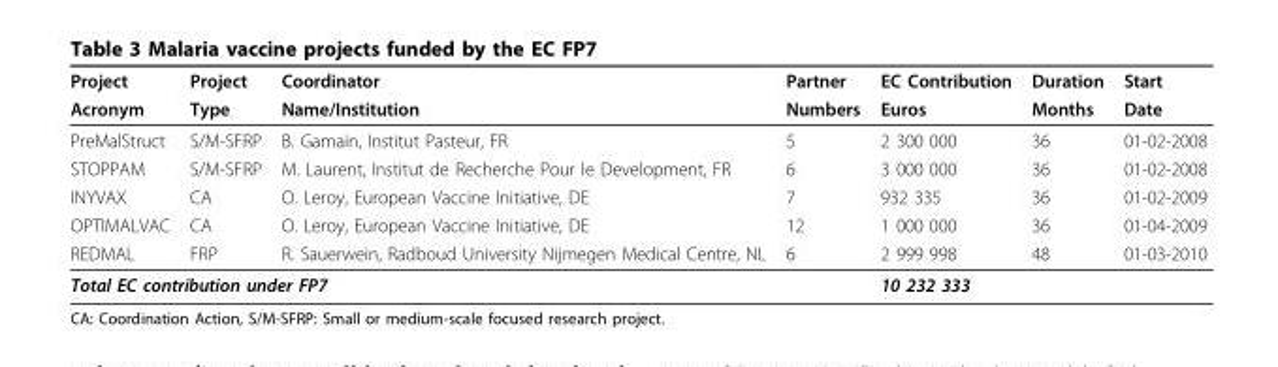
<table><thead><tr><td rowspan="2">Project Acronym</td><td rowspan="2">Project Type</td><td rowspan="2">Coordinator Name/Institution</td><td rowspan="2">Partner Numbers</td><td rowspan="2">EC Contribution Euros</td><td rowspan="2">Duration Months</td><td rowspan="2">Start Date</td></tr><tr></tr></thead><tbody><tr><td>PreMalStruct</td><td>S/M-SFRP</td><td>B. Gamain, Institut Pasteur, FR</td><td>5</td><td>2 300 000</td><td>36</td><td>01-02-2008</td></tr><tr><td>STOPPAM</td><td>S/M-SFRP</td><td>M. Laurent, Institut de Recherche Pour le Development, FR</td><td>6</td><td>3 000 000</td><td>36</td><td>01-02-2008</td></tr><tr><td>INYVAX</td><td>CA</td><td>O. Leroy, European Vaccine Initiative, DE</td><td>7</td><td>932 335</td><td>36</td><td>01-02-2009</td></tr><tr><td>OPTIMALVAC</td><td>CA</td><td>O. Leroy, European Vaccine Initiative, DE</td><td>12</td><td>1 000 000</td><td>36</td><td>01-04-2009</td></tr><tr><td>REDMAL</td><td>FRP</td><td>R. Sauerwein, Radboud University Nijmegen Medical Centre, NL</td><td>6</td><td>2 999 998</td><td>48</td><td>01-03-2010</td></tr><tr><td colspan="3">Total EC contribution under FP7</td><td></td><td>10 232 333</td><td></td><td></td></tr></tbody></table>